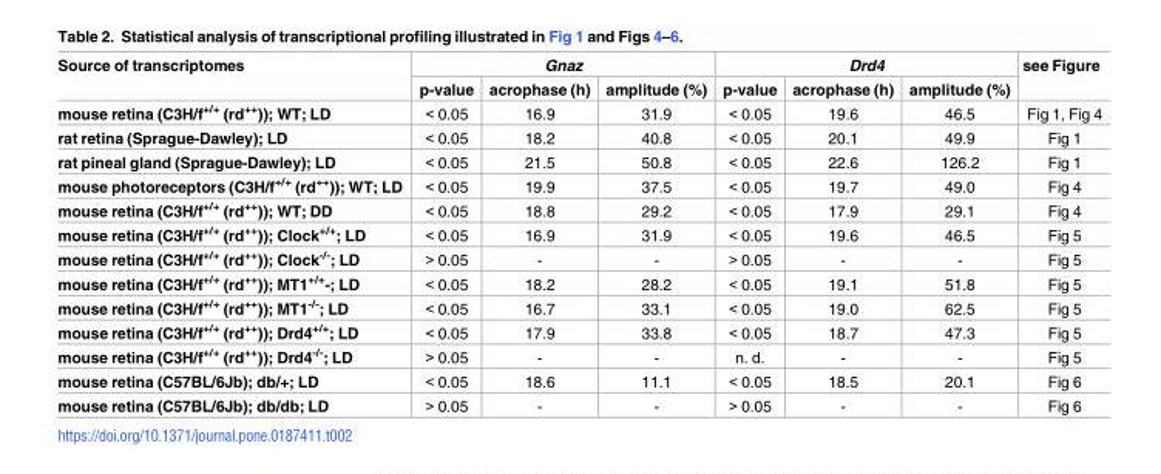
<table><thead><tr><td rowspan="2">Source of transcriptomes</td><td colspan="3">Gnaz</td><td colspan="3">Drd4</td><td rowspan="2">see Figure</td></tr><tr><td>p-value</td><td>acrophase (h)</td><td>amplitude (%)</td><td>p-value</td><td>acrophase (h)</td><td>amplitude (%)</td></tr></thead><tbody><tr><td>mouse retina (C3H/f<sup>+/+</sup> (rd<sup>++</sup>)); WT; LD</td><td>&lt; 0.05</td><td>16.9</td><td>31.9</td><td>&lt; 0.05</td><td>19.6</td><td>46.5</td><td>Fig 1, Fig 4</td></tr><tr><td>rat retina (Sprague-Dawley); LD</td><td>&lt; 0.05</td><td>18.2</td><td>40.8</td><td>&lt; 0.05</td><td>20.1</td><td>49.9</td><td>Fig 1</td></tr><tr><td>rat pineal gland (Sprague-Dawley); LD</td><td>&lt; 0.05</td><td>21.5</td><td>50.8</td><td>&lt; 0.05</td><td>22.6</td><td>126.2</td><td>Fig 1</td></tr><tr><td>mouse photoreceptors (C3H/f<sup>+/+</sup> (rd<sup>++</sup>)); WT; LD</td><td>&lt; 0.05</td><td>19.9</td><td>37.5</td><td>&lt; 0.05</td><td>19.7</td><td>49.0</td><td>Fig 4</td></tr><tr><td>mouse retina (C3H/f<sup>+/+</sup> (rd<sup>++</sup>)); WT; DD</td><td>&lt; 0.05</td><td>18.8</td><td>29.2</td><td>&lt; 0.05</td><td>17.9</td><td>29.1</td><td>Fig 4</td></tr><tr><td>mouse retina (C3H/f<sup>+/+</sup> (rd<sup>++</sup>)); Clock<sup>+/+</sup>; LD</td><td>&lt; 0.05</td><td>16.9</td><td>31.9</td><td>&lt; 0.05</td><td>19.6</td><td>46.5</td><td>Fig 5</td></tr><tr><td>mouse retina (C3H/f<sup>+/+</sup> (rd<sup>++</sup>)); Clock<sup>-/-</sup>; LD</td><td>&gt; 0.05</td><td>-</td><td>-</td><td>&gt; 0.05</td><td>-</td><td>-</td><td>Fig 5</td></tr><tr><td>mouse retina (C3H/f<sup>+/+</sup> (rd<sup>++</sup>)); MT1<sup>+/+</sup>-; LD</td><td>&lt; 0.05</td><td>18.2</td><td>28.2</td><td>&lt; 0.05</td><td>19.1</td><td>51.8</td><td>Fig 5</td></tr><tr><td>mouse retina (C3H/f<sup>+/+</sup> (rd<sup>++</sup>)); MT1<sup>-/-</sup>; LD</td><td>&lt; 0.05</td><td>16.7</td><td>33.1</td><td>&lt; 0.05</td><td>19.0</td><td>62.5</td><td>Fig 5</td></tr><tr><td>mouse retina (C3H/f<sup>+/+</sup> (rd<sup>++</sup>)); Drd4<sup>+/+</sup>; LD</td><td>&lt; 0.05</td><td>17.9</td><td>33.8</td><td>&lt; 0.05</td><td>18.7</td><td>47.3</td><td>Fig 5</td></tr><tr><td>mouse retina (C3H/f<sup>+/+</sup> (rd<sup>++</sup>)); Drd4<sup>-/-</sup>; LD</td><td>&gt; 0.05</td><td>-</td><td>-</td><td>n. d.</td><td>-</td><td>-</td><td>Fig 5</td></tr><tr><td>mouse retina (C57BL/6Jb); db/+; LD</td><td>&lt; 0.05</td><td>18.6</td><td>11.1</td><td>&lt; 0.05</td><td>18.5</td><td>20.1</td><td>Fig 6</td></tr><tr><td>mouse retina (C57BL/6Jb); db/db; LD</td><td>&gt; 0.05</td><td>-</td><td>-</td><td>&gt; 0.05</td><td>-</td><td>-</td><td>Fig 6</td></tr></tbody></table>